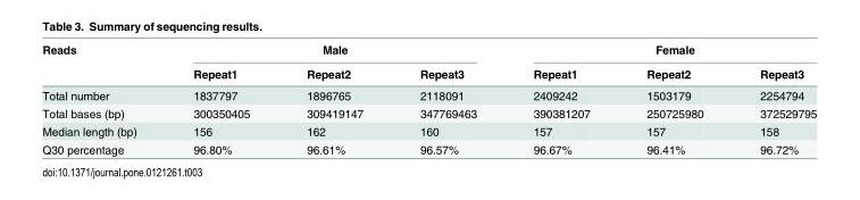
<table><thead><tr><td rowspan="2">Reads</td><td colspan="3">Male</td><td colspan="3">Female</td></tr><tr><td>Repeat1</td><td>Repeat2</td><td>Repeat3</td><td>Repeat1</td><td>Repeat2</td><td>Repeat3</td></tr></thead><tbody><tr><td>Total number</td><td>1837797</td><td>1896765</td><td>2118091</td><td>2409242</td><td>1503179</td><td>2254794</td></tr><tr><td>Total bases (bp)</td><td>300350405</td><td>309419147</td><td>347769463</td><td>390381207</td><td>250725980</td><td>372529795</td></tr><tr><td>Median length (bp)</td><td>156</td><td>162</td><td>160</td><td>157</td><td>157</td><td>158</td></tr><tr><td>Q30 percentage</td><td>96.80%</td><td>96.61%</td><td>96.57%</td><td>96.67%</td><td>96.41%</td><td>96.72%</td></tr></tbody></table>